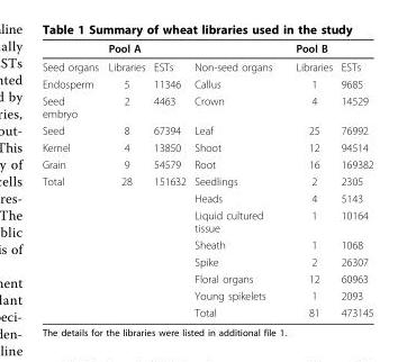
<table><thead><tr><td></td><td>Pool A</td><td></td><td></td><td>Pool B</td><td></td></tr></thead><tbody><tr><td>Seed organs</td><td>Libraries</td><td>ESTs</td><td>Non-seed organs</td><td>Libraries</td><td>ESTs</td></tr><tr><td>Endosperm</td><td>5</td><td>11346</td><td>Callus</td><td>1</td><td>9685</td></tr><tr><td>Seed embryo</td><td>2</td><td>4463</td><td>Crown</td><td>4</td><td>14529</td></tr><tr><td>Seed</td><td>8</td><td>67394</td><td>Leaf</td><td>25</td><td>76992</td></tr><tr><td>Kernel</td><td>4</td><td>13850</td><td>Shoot</td><td>12</td><td>94514</td></tr><tr><td>Grain</td><td>9</td><td>54579</td><td>Root</td><td>16</td><td>169382</td></tr><tr><td rowspan="8">Total</td><td>28</td><td>151632</td><td>Seedlings</td><td>2</td><td>2305</td></tr><tr><td></td><td></td><td>Heads</td><td>4</td><td>5143</td></tr><tr><td></td><td></td><td>Liquid cultured tissue</td><td>1</td><td>10164</td></tr><tr><td></td><td></td><td>Sheath</td><td>1</td><td>1068</td></tr><tr><td></td><td></td><td>Spike</td><td>2</td><td>26307</td></tr><tr><td></td><td></td><td>Floral organs</td><td>12</td><td>60963</td></tr><tr><td></td><td></td><td>Young spikelets</td><td>1</td><td>2093</td></tr><tr><td></td><td></td><td>Total</td><td>81</td><td>473145</td></tr></tbody></table>